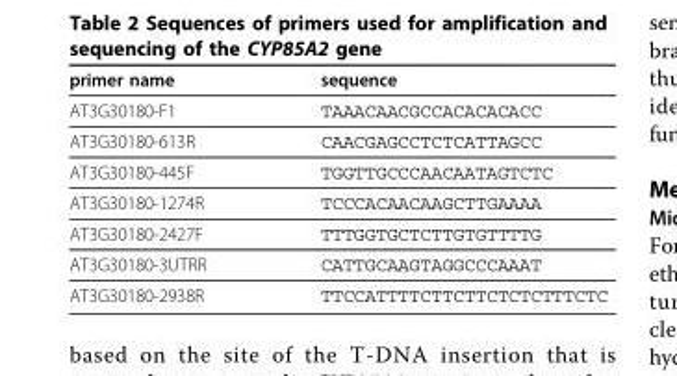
<table><thead><tr><td>primer name</td><td>sequence</td></tr></thead><tbody><tr><td>AT3G30180-F1</td><td>TAAACAACGCCACACACACC</td></tr><tr><td>AT3G30180-613R</td><td>CAACGAGCCTCTCATTAGCC</td></tr><tr><td>AT3G30180-445F</td><td>TGGTTGCCCAACAATAGTCTC</td></tr><tr><td>AT3G30180-1274R</td><td>TCCCACAACAAGCTTGAAAA</td></tr><tr><td>AT3G30180-2427F</td><td>TTTGGTGCTCTTGTGTTTTG</td></tr><tr><td>AT3G30180-3UTRR</td><td>CATTGCAAGTAGGCCCAAAT</td></tr><tr><td>AT3G30180-2938R</td><td>TTCCATTTTCTTCTTCTCTCTTTCTC</td></tr></tbody></table>